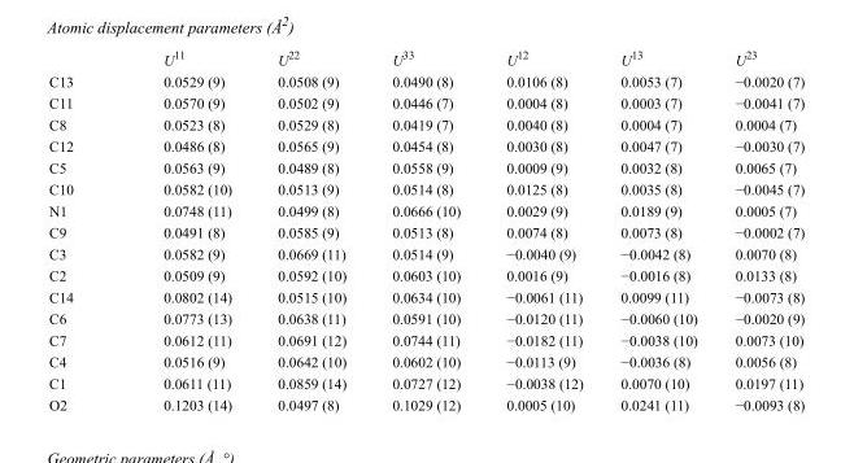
<table><thead><tr><td></td><td>U<sup>11</sup></td><td>U<sup>22</sup></td><td>U<sup>33</sup></td><td>U<sup>12</sup></td><td>U<sup>13</sup></td><td>U<sup>23</sup></td></tr></thead><tbody><tr><td>C13</td><td>0.0529 (9)</td><td>0.0508 (9)</td><td>0.0490 (8)</td><td>0.0106 (8)</td><td>0.0053 (7)</td><td>−0.0020 (7)</td></tr><tr><td>C11</td><td>0.0570 (9)</td><td>0.0502 (9)</td><td>0.0446 (7)</td><td>0.0004 (8)</td><td>0.0003 (7)</td><td>−0.0041 (7)</td></tr><tr><td>C8</td><td>0.0523 (8)</td><td>0.0529 (8)</td><td>0.0419 (7)</td><td>0.0040 (8)</td><td>0.0004 (7)</td><td>0.0004 (7)</td></tr><tr><td>C12</td><td>0.0486 (8)</td><td>0.0565 (9)</td><td>0.0454 (8)</td><td>0.0030 (8)</td><td>0.0047 (7)</td><td>−0.0030 (7)</td></tr><tr><td>C5</td><td>0.0563 (9)</td><td>0.0489 (8)</td><td>0.0558 (9)</td><td>0.0009 (9)</td><td>0.0032 (8)</td><td>0.0065 (7)</td></tr><tr><td>C10</td><td>0.0582 (10)</td><td>0.0513 (9)</td><td>0.0514 (8)</td><td>0.0125 (8)</td><td>0.0035 (8)</td><td>−0.0045 (7)</td></tr><tr><td>N1</td><td>0.0748 (11)</td><td>0.0499 (8)</td><td>0.0666 (10)</td><td>0.0029 (9)</td><td>0.0189 (9)</td><td>0.0005 (7)</td></tr><tr><td>C9</td><td>0.0491 (8)</td><td>0.0585 (9)</td><td>0.0513 (8)</td><td>0.0074 (8)</td><td>0.0073 (8)</td><td>−0.0002 (7)</td></tr><tr><td>C3</td><td>0.0582 (9)</td><td>0.0669 (11)</td><td>0.0514 (9)</td><td>−0.0040 (9)</td><td>−0.0042 (8)</td><td>0.0070 (8)</td></tr><tr><td>C2</td><td>0.0509 (9)</td><td>0.0592 (10)</td><td>0.0603 (10)</td><td>0.0016 (9)</td><td>−0.0016 (8)</td><td>0.0133 (8)</td></tr><tr><td>C14</td><td>0.0802 (14)</td><td>0.0515 (10)</td><td>0.0634 (10)</td><td>−0.0061 (11)</td><td>0.0099 (11)</td><td>−0.0073 (8)</td></tr><tr><td>C6</td><td>0.0773 (13)</td><td>0.0638 (11)</td><td>0.0591 (10)</td><td>−0.0120 (11)</td><td>−0.0060 (10)</td><td>−0.0020 (9)</td></tr><tr><td>C7</td><td>0.0612 (11)</td><td>0.0691 (12)</td><td>0.0744 (11)</td><td>−0.0182 (11)</td><td>−0.0038 (10)</td><td>0.0073 (10)</td></tr><tr><td>C4</td><td>0.0516 (9)</td><td>0.0642 (10)</td><td>0.0602 (10)</td><td>−0.0113 (9)</td><td>−0.0036 (8)</td><td>0.0056 (8)</td></tr><tr><td>C1</td><td>0.0611 (11)</td><td>0.0859 (14)</td><td>0.0727 (12)</td><td>−0.0038 (12)</td><td>0.0070 (10)</td><td>0.0197 (11)</td></tr><tr><td>O2</td><td>0.1203 (14)</td><td>0.0497 (8)</td><td>0.1029 (12)</td><td>0.0005 (10)</td><td>0.0241 (11)</td><td>−0.0093 (8)</td></tr></tbody></table>